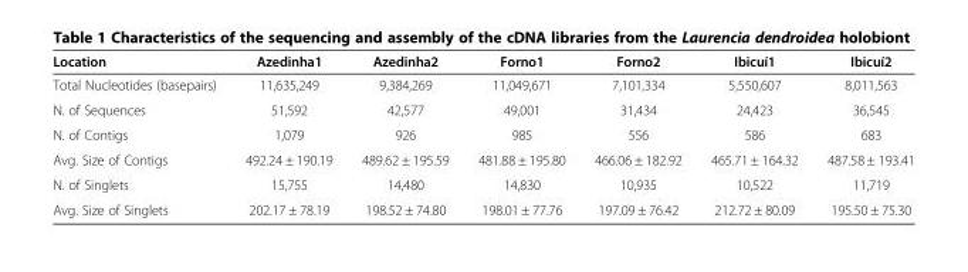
<table><thead><tr><td>Location</td><td>Azedinha1</td><td>Azedinha2</td><td>Forno1</td><td>Forno2</td><td>Ibicuí1</td><td>Ibicuí2</td></tr></thead><tbody><tr><td>Total Nucleotides (basepairs)</td><td>11,635,249</td><td>9,384,269</td><td>11,049,671</td><td>7,101,334</td><td>5,550,607</td><td>8,011,563</td></tr><tr><td>N. of Sequences</td><td>51,592</td><td>42,577</td><td>49,001</td><td>31,434</td><td>24,423</td><td>36,545</td></tr><tr><td>N. of Contigs</td><td>1,079</td><td>926</td><td>985</td><td>556</td><td>586</td><td>683</td></tr><tr><td>Avg. Size of Contigs</td><td>492.24 ± 190.19</td><td>489.62 ± 195.59</td><td>481.88 ± 195.80</td><td>466.06 ± 182.92</td><td>465.71 ± 164.32</td><td>487.58 ± 193.41</td></tr><tr><td>N. of Singlets</td><td>15,755</td><td>14,480</td><td>14,830</td><td>10,935</td><td>10,522</td><td>11,719</td></tr><tr><td>Avg. Size of Singlets</td><td>202.17 ± 78.19</td><td>198.52 ± 74.80</td><td>198.01 ± 77.76</td><td>197.09 ± 76.42</td><td>212.72 ± 80.09</td><td>195.50 ± 75.30</td></tr></tbody></table>